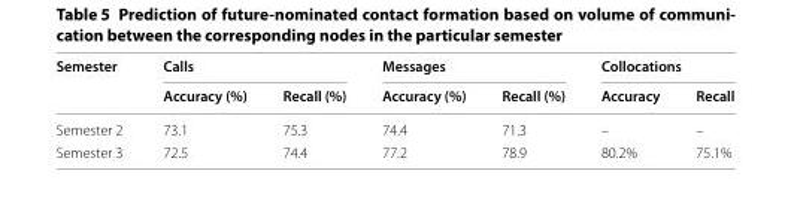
<table><thead><tr><td rowspan="2">Semester</td><td colspan="2">Calls</td><td colspan="2">Messages</td><td colspan="2">Collocations</td></tr><tr><td>Accuracy (%)</td><td>Recall (%)</td><td>Accuracy (%)</td><td>Recall (%)</td><td>Accuracy</td><td>Recall</td></tr></thead><tbody><tr><td>Semester 2</td><td>73.1</td><td>75.3</td><td>74.4</td><td>71.3</td><td>–</td><td>–</td></tr><tr><td>Semester 3</td><td>72.5</td><td>74.4</td><td>77.2</td><td>78.9</td><td>80.2%</td><td>75.1%</td></tr></tbody></table>